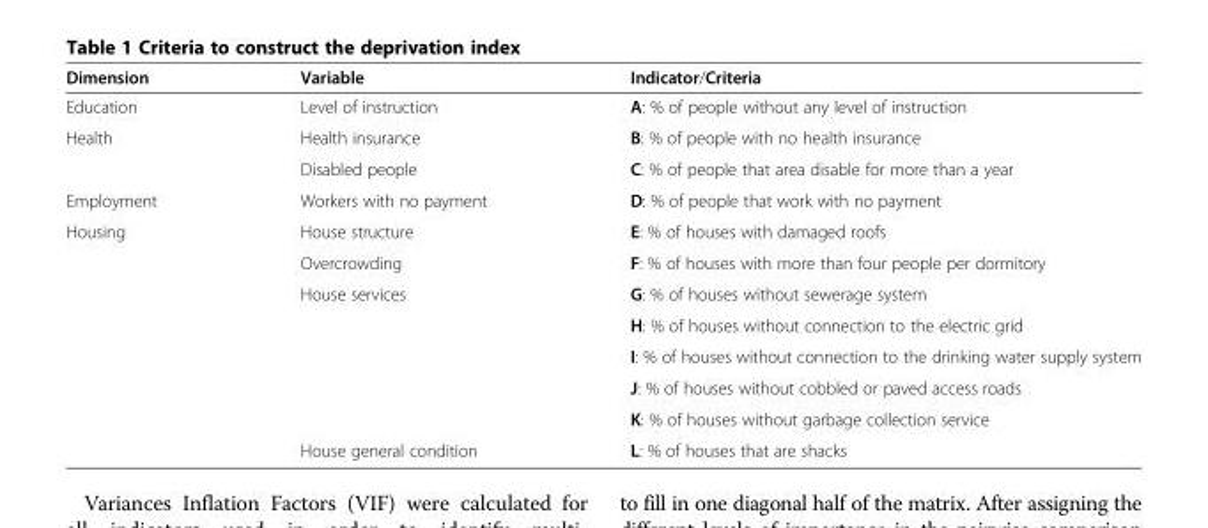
<table><thead><tr><td>Dimension</td><td>Variable</td><td>Indicator/Criteria</td></tr></thead><tbody><tr><td>Education</td><td>Level of instruction</td><td>A: % of people without any level of instruction</td></tr><tr><td rowspan="2">Health</td><td>Health insurance</td><td>B: % of people with no health insurance</td></tr><tr><td>Disabled people</td><td>C: % of people that area disable for more than a year</td></tr><tr><td>Employment</td><td>Workers with no payment</td><td>D: % of people that work with no payment</td></tr><tr><td rowspan="8">Housing</td><td>House structure</td><td>E: % of houses with damaged roofs</td></tr><tr><td>Overcrowding</td><td>F: % of houses with more than four people per dormitory</td></tr><tr><td>House services</td><td>G: % of houses without sewerage system</td></tr><tr><td></td><td>H: % of houses without connection to the electric grid</td></tr><tr><td></td><td>I: % of houses without connection to the drinking water supply system</td></tr><tr><td></td><td>J: % of houses without cobbled or paved access roads</td></tr><tr><td></td><td>K: % of houses without garbage collection service</td></tr><tr><td>House general condition</td><td>L: % of houses that are shacks</td></tr></tbody></table>